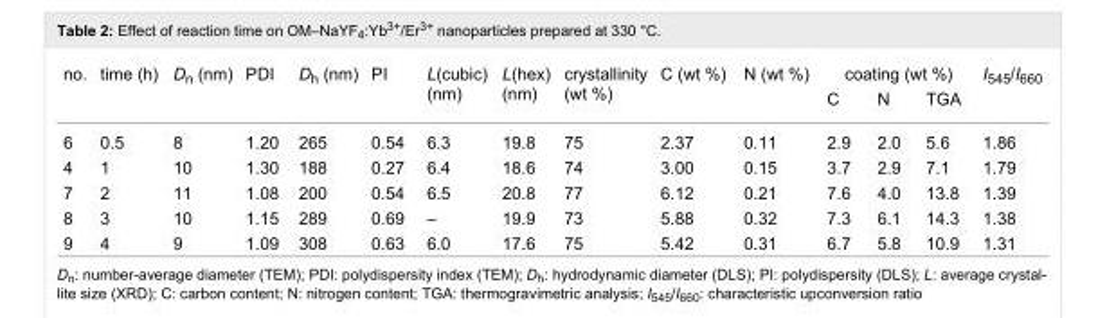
<table><tbody><tr><td rowspan="2">no.</td><td rowspan="2">time (h)</td><td rowspan="2">D<sub>n</sub> (nm)</td><td rowspan="2">PDI</td><td rowspan="2">D<sub>h</sub> (nm)</td><td rowspan="2">PI</td><td rowspan="2">L(cubic) (nm)</td><td rowspan="2">L(hex) (nm)</td><td rowspan="2">crystallinity (wt %)</td><td rowspan="2">C (wt %)</td><td rowspan="2">N (wt %)</td><td colspan="3">coating (wt %)</td><td rowspan="2">I<sub>545</sub>/I<sub>660</sub></td></tr><tr><td>C</td><td>N</td><td>TGA</td></tr><tr><td>6</td><td>0.5</td><td>8</td><td>1.20</td><td>265</td><td>0.54</td><td>6.3</td><td>19.8</td><td>75</td><td>2.37</td><td>0.11</td><td>2.9</td><td>2.0</td><td>5.6</td><td>1.86</td></tr><tr><td>4</td><td>1</td><td>10</td><td>1.30</td><td>188</td><td>0.27</td><td>6.4</td><td>18.6</td><td>74</td><td>3.00</td><td>0.15</td><td>3.7</td><td>2.9</td><td>7.1</td><td>1.79</td></tr><tr><td>7</td><td>2</td><td>11</td><td>1.08</td><td>200</td><td>0.54</td><td>6.5</td><td>20.8</td><td>77</td><td>6.12</td><td>0.21</td><td>7.6</td><td>4.0</td><td>13.8</td><td>1.39</td></tr><tr><td>8</td><td>3</td><td>10</td><td>1.15</td><td>289</td><td>0.69</td><td>–</td><td>19.9</td><td>73</td><td>5.88</td><td>0.32</td><td>7.3</td><td>6.1</td><td>14.3</td><td>1.38</td></tr><tr><td>9</td><td>4</td><td>9</td><td>1.09</td><td>308</td><td>0.63</td><td>6.0</td><td>17.6</td><td>75</td><td>5.42</td><td>0.31</td><td>6.7</td><td>5.8</td><td>10.9</td><td>1.31</td></tr></tbody></table>